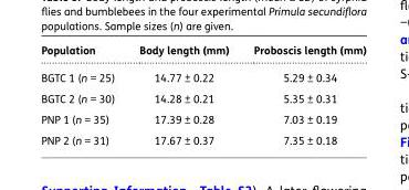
<table><thead><tr><td>Population</td><td>Body length (mm)</td><td>Proboscis length (mm)</td></tr></thead><tbody><tr><td>BGTC 1 (n = 25)</td><td>14.77 ± 0.22</td><td>5.29 ± 0.34</td></tr><tr><td>BGTC 2 (n = 30)</td><td>14.28 ± 0.21</td><td>5.35 ± 0.31</td></tr><tr><td>PNP 1 (n = 35)</td><td>17.39 ± 0.28</td><td>7.03 ± 0.19</td></tr><tr><td>PNP 2 (n = 31)</td><td>17.67 ± 0.37</td><td>7.35 ± 0.18</td></tr></tbody></table>